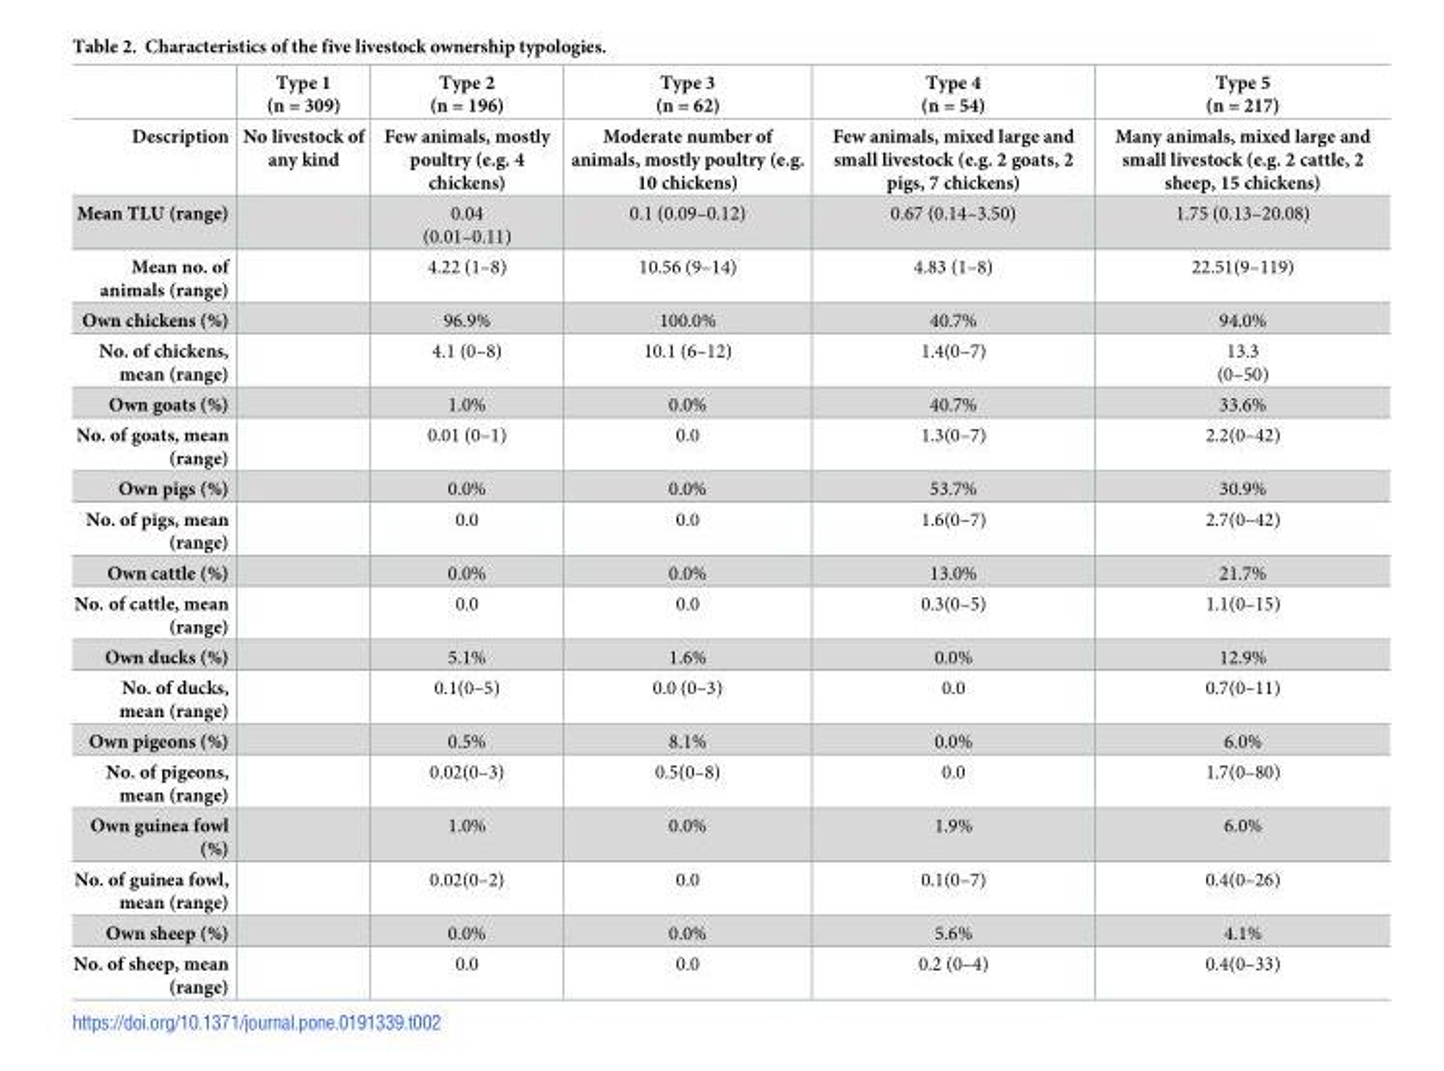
<table><thead><tr><td rowspan="2">Description</td><td rowspan="2">Type 1 (n = 309) No livestock of any kind</td><td rowspan="2">Type 2 (n = 196) Few animals, mostly poultry (e.g. 4 chickens)</td><td rowspan="2">Type 3 (n = 62) Moderate number of animals, mostly poultry (e.g. 10 chickens)</td><td rowspan="2">Type 4 (n = 54) Few animals, mixed large and small livestock (e.g. 2 goats, 2 pigs, 7 chickens)</td><td rowspan="2">Type 5 (n = 217) Many animals, mixed large and small livestock (e.g. 2 cattle, 2 sheep, 15 chickens)</td></tr><tr></tr></thead><tbody><tr><td>Mean TLU (range)</td><td></td><td>0.04 (0.01–0.11)</td><td>0.1 (0.09–0.12)</td><td>0.67 (0.14–3.50)</td><td>1.75 (0.13–20.08)</td></tr><tr><td>Mean no. of animals (range)</td><td></td><td>4.22 (1–8)</td><td>10.56 (9–14)</td><td>4.83 (1–8)</td><td>22.51(9–119)</td></tr><tr><td>Own chickens (%)</td><td></td><td>96.9%</td><td>100.0%</td><td>40.7%</td><td>94.0%</td></tr><tr><td>No. of chickens, mean (range)</td><td></td><td>4.1 (0–8)</td><td>10.1 (6–12)</td><td>1.4(0–7)</td><td>13.3 (0–50)</td></tr><tr><td>Own goats (%)</td><td></td><td>1.0%</td><td>0.0%</td><td>40.7%</td><td>33.6%</td></tr><tr><td>No. of goats, mean (range)</td><td></td><td>0.01 (0–1)</td><td>0.0</td><td>1.3(0–7)</td><td>2.2(0–42)</td></tr><tr><td>Own pigs (%)</td><td></td><td>0.0%</td><td>0.0%</td><td>53.7%</td><td>30.9%</td></tr><tr><td>No. of pigs, mean (range)</td><td></td><td>0.0</td><td>0.0</td><td>1.6(0–7)</td><td>2.7(0–42)</td></tr><tr><td>Own cattle (%)</td><td></td><td>0.0%</td><td>0.0%</td><td>13.0%</td><td>21.7%</td></tr><tr><td>No. of cattle, mean (range)</td><td></td><td>0.0</td><td>0.0</td><td>0.3(0–5)</td><td>1.1(0–15)</td></tr><tr><td>Own ducks (%)</td><td></td><td>5.1%</td><td>1.6%</td><td>0.0%</td><td>12.9%</td></tr><tr><td>No. of ducks, mean (range)</td><td></td><td>0.1(0–5)</td><td>0.0 (0–3)</td><td>0.0</td><td>0.7(0–11)</td></tr><tr><td>Own pigeons (%)</td><td></td><td>0.5%</td><td>8.1%</td><td>0.0%</td><td>6.0%</td></tr><tr><td>No. of pigeons, mean (range)</td><td></td><td>0.02(0–3)</td><td>0.5(0–8)</td><td>0.0</td><td>1.7(0–80)</td></tr><tr><td>Own guinea fowl (%)</td><td></td><td>1.0%</td><td>0.0%</td><td>1.9%</td><td>6.0%</td></tr><tr><td>No. of guinea fowl, mean (range)</td><td></td><td>0.02(0–2)</td><td>0.0</td><td>0.1(0–7)</td><td>0.4(0–26)</td></tr><tr><td>Own sheep (%)</td><td></td><td>0.0%</td><td>0.0%</td><td>5.6%</td><td>4.1%</td></tr><tr><td>No. of sheep, mean (range)</td><td></td><td>0.0</td><td>0.0</td><td>0.2 (0–4)</td><td>0.4(0–33)</td></tr></tbody></table>